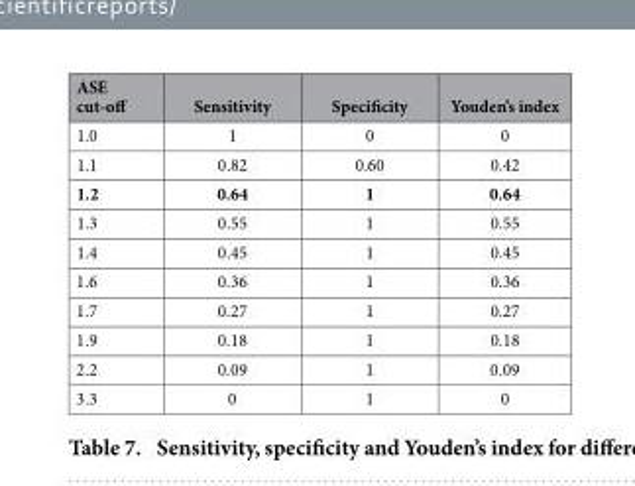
<table><thead><tr><td>ASE cut-off</td><td>Sensitivity</td><td>Specificity</td><td>Youden’s index</td></tr></thead><tbody><tr><td>1.0</td><td>1</td><td>0</td><td>0</td></tr><tr><td>1.1</td><td>0.82</td><td>0.60</td><td>0.42</td></tr><tr><td>1.2</td><td>0.64</td><td>1</td><td>0.64</td></tr><tr><td>1.3</td><td>0.55</td><td>1</td><td>0.55</td></tr><tr><td>1.4</td><td>0.45</td><td>1</td><td>0.45</td></tr><tr><td>1.6</td><td>0.36</td><td>1</td><td>0.36</td></tr><tr><td>1.7</td><td>0.27</td><td>1</td><td>0.27</td></tr><tr><td>1.9</td><td>0.18</td><td>1</td><td>0.18</td></tr><tr><td>2.2</td><td>0.09</td><td>1</td><td>0.09</td></tr><tr><td>3.3</td><td>0</td><td>1</td><td>0</td></tr></tbody></table>